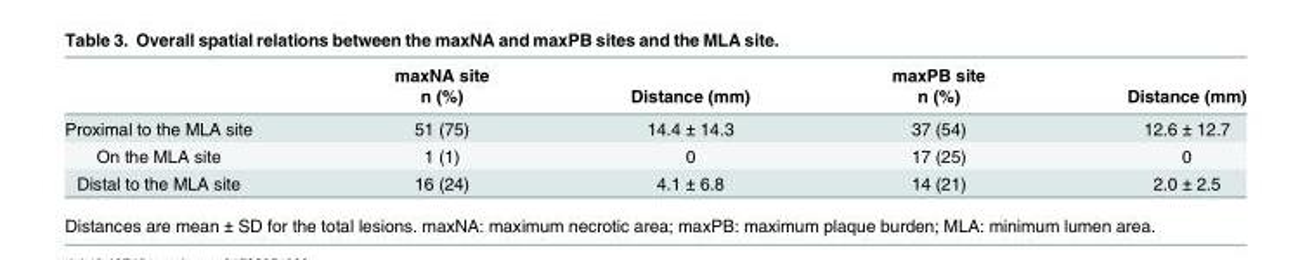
<table><thead><tr><td rowspan="2"></td><td rowspan="2">maxNA site n (%)</td><td rowspan="2">Distance (mm)</td><td rowspan="2">maxPB site n (%)</td><td rowspan="2">Distance (mm)</td></tr><tr></tr></thead><tbody><tr><td>Proximal to the MLA site</td><td>51 (75)</td><td>14.4 ± 14.3</td><td>37 (54)</td><td>12.6 ± 12.7</td></tr><tr><td>On the MLA site</td><td>1 (1)</td><td>0</td><td>17 (25)</td><td>0</td></tr><tr><td>Distal to the MLA site</td><td>16 (24)</td><td>4.1 ± 6.8</td><td>14 (21)</td><td>2.0 ± 2.5</td></tr></tbody></table>